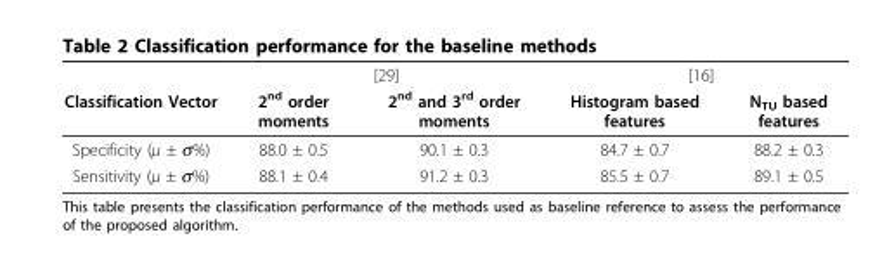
<table><thead><tr><td rowspan="2">Classification Vector</td><td colspan="2">[29]</td><td colspan="2">[16]</td></tr><tr><td>2<sup>nd</sup> order moments</td><td>2<sup>nd</sup> and 3<sup>rd</sup> order moments</td><td>Histogram based features</td><td>N<sub>TU</sub> based features</td></tr></thead><tbody><tr><td>Specificity (μ ± σ%)</td><td>88.0 ± 0.5</td><td>90.1 ± 0.3</td><td>84.7 ± 0.7</td><td>88.2 ± 0.3</td></tr><tr><td>Sensitivity (μ ± σ%)</td><td>88.1 ± 0.4</td><td>91.2 ± 0.3</td><td>85.5 ± 0.7</td><td>89.1 ± 0.5</td></tr></tbody></table>